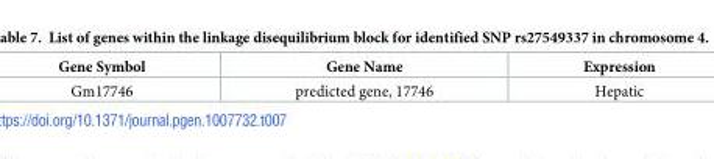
<table><thead><tr><td>Gene Symbol</td><td>Gene Name</td><td>Expression</td></tr></thead><tbody><tr><td>Gm17746</td><td>predicted gene, 17746</td><td>Hepatic</td></tr></tbody></table>